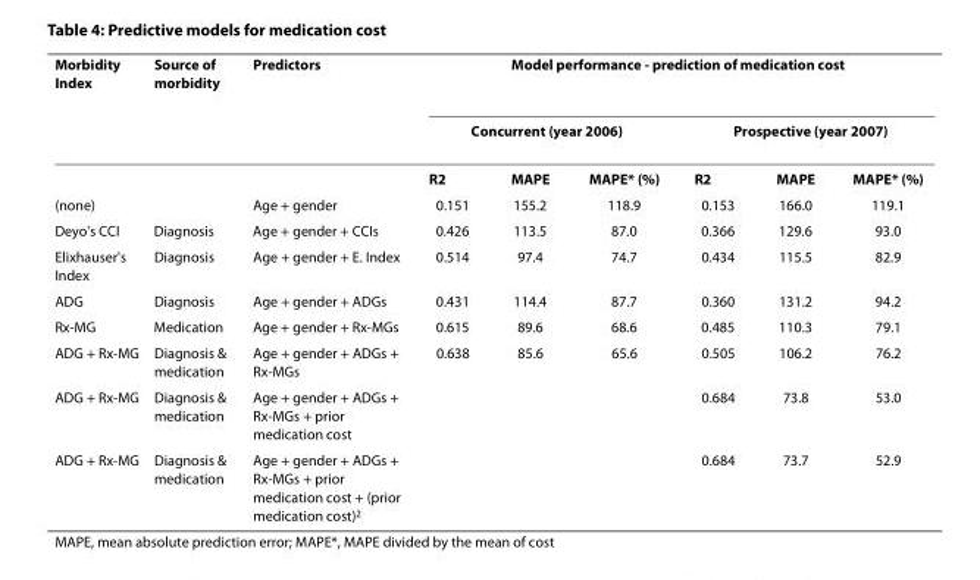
<table><thead><tr><td rowspan="3">Morbidity Index</td><td rowspan="3">Source of morbidity</td><td rowspan="3">Predictors</td><td colspan="6">Model performance - prediction of medication cost</td></tr><tr><td colspan="3">Concurrent (year 2006)</td><td colspan="3">Prospective (year 2007)</td></tr><tr><td>R<sup>2</sup></td><td>MAPE</td><td>MAPE* (%)</td><td>R<sup>2</sup></td><td>MAPE</td><td>MAPE* (%)</td></tr></thead><tbody><tr><td>(none)</td><td></td><td>Age + gender</td><td>0.151</td><td>155.2</td><td>118.9</td><td>0.153</td><td>166.0</td><td>119.1</td></tr><tr><td>Deyo&#x27;s CCI</td><td>Diagnosis</td><td>Age + gender + CCIs</td><td>0.426</td><td>113.5</td><td>87.0</td><td>0.366</td><td>129.6</td><td>93.0</td></tr><tr><td>Elixhauser&#x27;s Index</td><td>Diagnosis</td><td>Age + gender + E. Index</td><td>0.514</td><td>97.4</td><td>74.7</td><td>0.434</td><td>115.5</td><td>82.9</td></tr><tr><td>ADG</td><td>Diagnosis</td><td>Age + gender + ADGs</td><td>0.431</td><td>114.4</td><td>87.7</td><td>0.360</td><td>131.2</td><td>94.2</td></tr><tr><td>Rx-MG</td><td>Medication</td><td>Age + gender + Rx-MGs</td><td>0.615</td><td>89.6</td><td>68.6</td><td>0.485</td><td>110.3</td><td>79.1</td></tr><tr><td>ADG + Rx-MG</td><td>Diagnosis &amp; medication</td><td>Age + gender + ADGs + Rx-MGs</td><td>0.638</td><td>85.6</td><td>65.6</td><td>0.505</td><td>106.2</td><td>76.2</td></tr><tr><td>ADG + Rx-MG</td><td>Diagnosis &amp; medication</td><td>Age + gender + ADGs + Rx-MGs + prior medication cost</td><td></td><td></td><td></td><td>0.684</td><td>73.8</td><td>53.0</td></tr><tr><td>ADG + Rx-MG</td><td>Diagnosis &amp; medication</td><td>Age + gender + ADGs + Rx-MGs + prior medication cost + (prior medication cost)<sup>2</sup></td><td></td><td></td><td></td><td>0.684</td><td>73.7</td><td>52.9</td></tr></tbody></table>